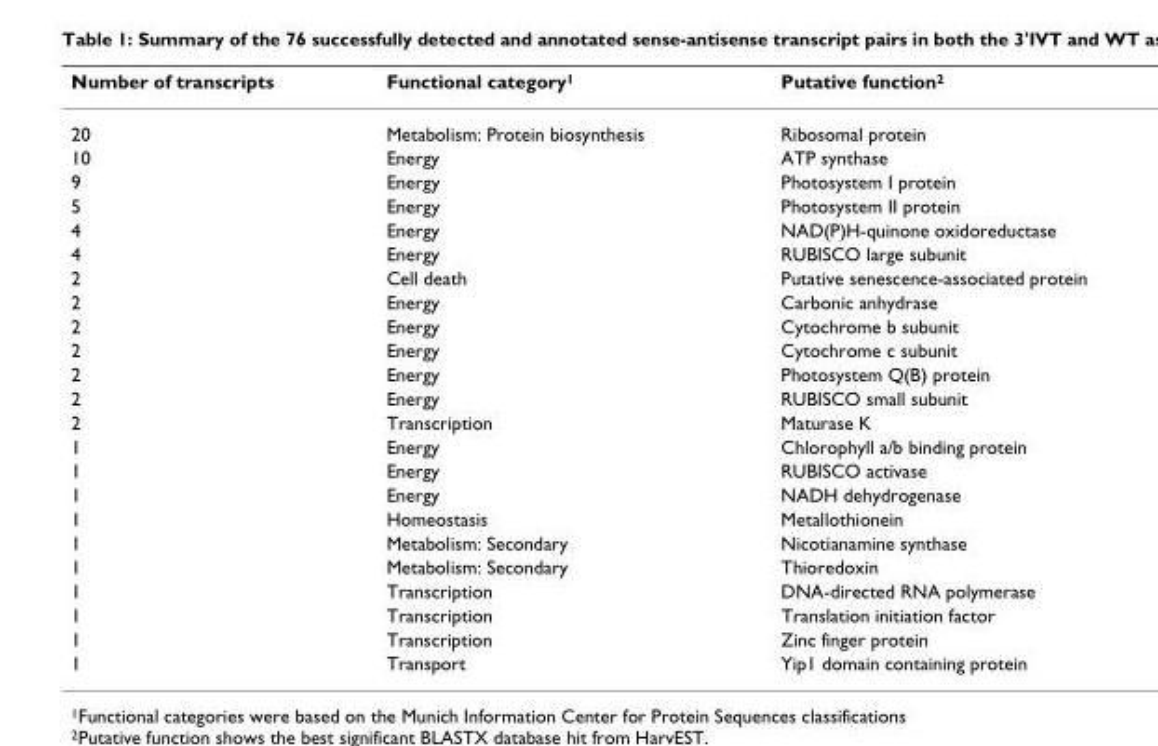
<table><thead><tr><td>Number of transcripts</td><td>Functional category<sup>1</sup></td><td>Putative function<sup>2</sup></td></tr></thead><tbody><tr><td>20</td><td>Metabolism: Protein biosynthesis</td><td>Ribosomal protein</td></tr><tr><td>10</td><td>Energy</td><td>ATP synthase</td></tr><tr><td>9</td><td>Energy</td><td>Photosystem I protein</td></tr><tr><td>5</td><td>Energy</td><td>Photosystem II protein</td></tr><tr><td>4</td><td>Energy</td><td>NAD(P)H-quinone oxidoreductase</td></tr><tr><td>4</td><td>Energy</td><td>RUBISCO large subunit</td></tr><tr><td>2</td><td>Cell death</td><td>Putative senescence-associated protein</td></tr><tr><td>2</td><td>Energy</td><td>Carbonic anhydrase</td></tr><tr><td>2</td><td>Energy</td><td>Cytochrome b subunit</td></tr><tr><td>2</td><td>Energy</td><td>Cytochrome c subunit</td></tr><tr><td>2</td><td>Energy</td><td>Photosystem Q(B) protein</td></tr><tr><td>2</td><td>Energy</td><td>RUBISCO small subunit</td></tr><tr><td>2</td><td>Transcription</td><td>Maturase K</td></tr><tr><td>1</td><td>Energy</td><td>Chlorophyll a/b binding protein</td></tr><tr><td>1</td><td>Energy</td><td>RUBISCO activase</td></tr><tr><td>1</td><td>Energy</td><td>NADH dehydrogenase</td></tr><tr><td>1</td><td>Homeostasis</td><td>Metallothionein</td></tr><tr><td>1</td><td>Metabolism: Secondary</td><td>Nicotianamine synthase</td></tr><tr><td>1</td><td>Metabolism: Secondary</td><td>Thioredoxin</td></tr><tr><td>1</td><td>Transcription</td><td>DNA-directed RNA polymerase</td></tr><tr><td>1</td><td>Transcription</td><td>Translation initiation factor</td></tr><tr><td>1</td><td>Transcription</td><td>Zinc finger protein</td></tr><tr><td>1</td><td>Transport</td><td>Yip1 domain containing protein</td></tr></tbody></table>